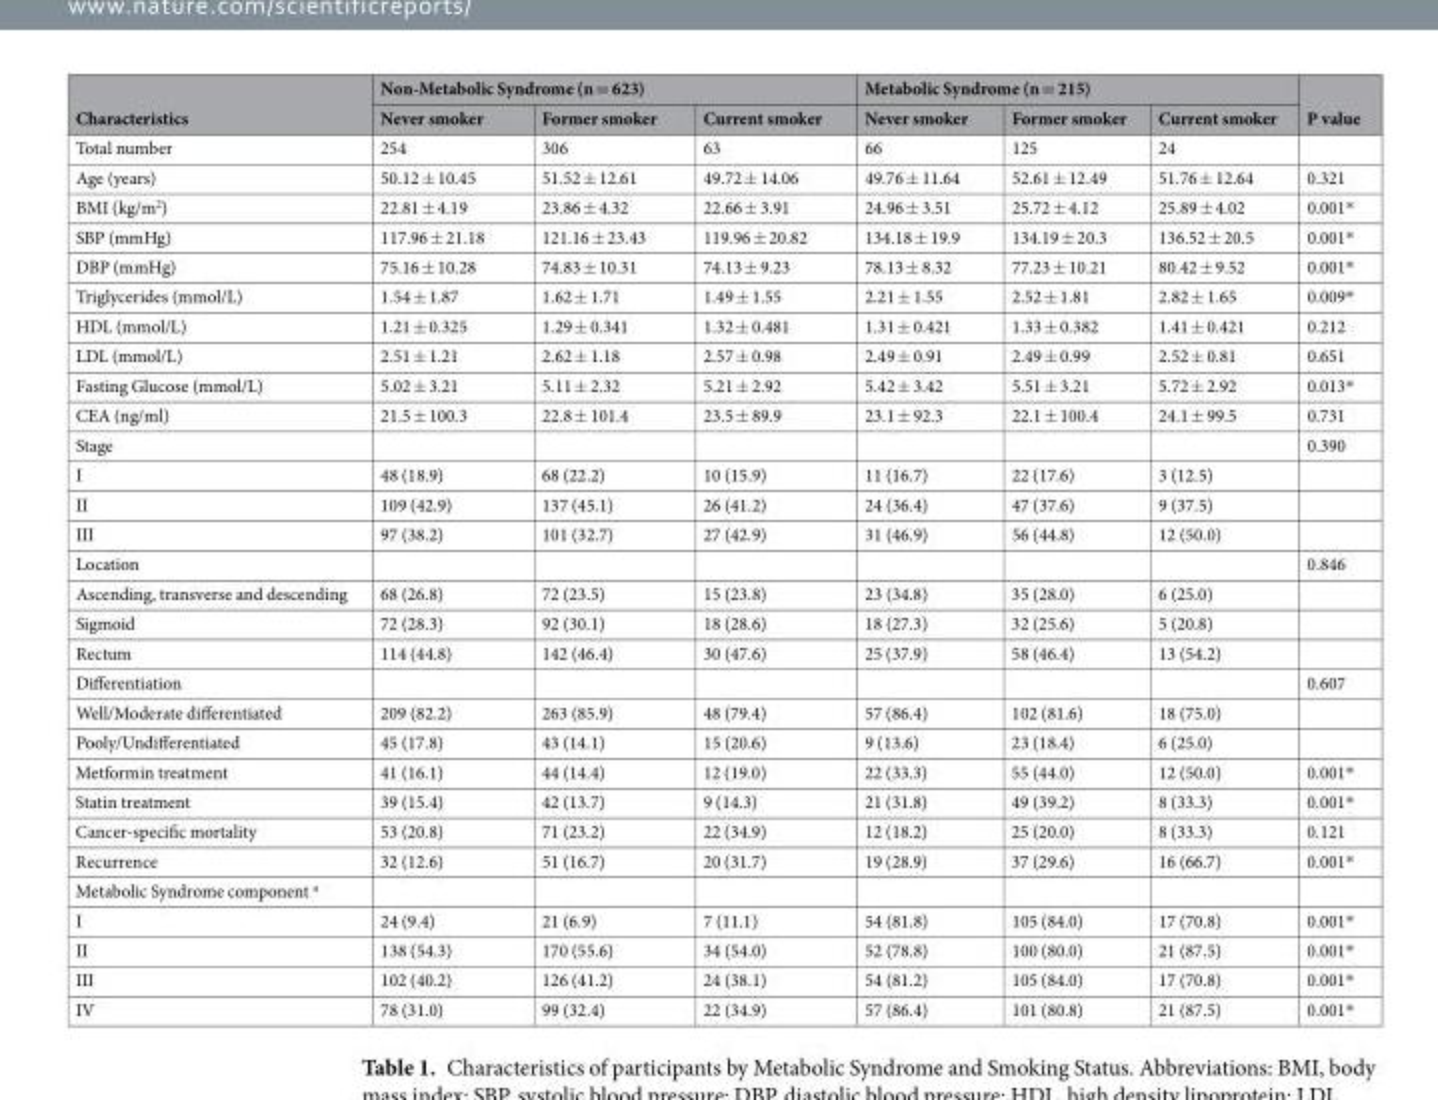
<table><thead><tr><td rowspan="2">Characteristics</td><td colspan="3">Non-Metabolic Syndrome (n = 623)</td><td colspan="3">Metabolic Syndrome (n = 215)</td><td rowspan="2">P value</td></tr><tr><td>Never smoker</td><td>Former smoker</td><td>Current smoker</td><td>Never smoker</td><td>Former smoker</td><td>Current smoker</td></tr></thead><tbody><tr><td>Total number</td><td>254</td><td>306</td><td>63</td><td>66</td><td>125</td><td>24</td><td></td></tr><tr><td>Age (years)</td><td>50.12 ± 10.45</td><td>51.52 ± 12.61</td><td>49.72 ± 14.06</td><td>49.76 ± 11.64</td><td>52.61 ± 12.49</td><td>51.76 ± 12.64</td><td>0.321</td></tr><tr><td>BMI (kg/m<sup>2</sup>)</td><td>22.81 ± 4.19</td><td>23.86 ± 4.32</td><td>22.66 ± 3.91</td><td>24.96 ± 3.51</td><td>25.72 ± 4.12</td><td>25.89 ± 4.02</td><td>0.001*</td></tr><tr><td>SBP (mmHg)</td><td>117.96 ± 21.18</td><td>121.16 ± 23.43</td><td>119.96 ± 20.82</td><td>134.18 ± 19.9</td><td>134.19 ± 20.3</td><td>136.52 ± 20.5</td><td>0.001*</td></tr><tr><td>DBP (mmHg)</td><td>75.16 ± 10.28</td><td>74.83 ± 10.31</td><td>74.13 ± 9.23</td><td>78.13 ± 8.32</td><td>77.23 ± 10.21</td><td>80.42 ± 9.52</td><td>0.001*</td></tr><tr><td>Triglycerides (mmol/L)</td><td>1.54 ± 1.87</td><td>1.62 ± 1.71</td><td>1.49 ± 1.55</td><td>2.21 ± 1.55</td><td>2.52 ± 1.81</td><td>2.82 ± 1.65</td><td>0.009*</td></tr><tr><td>HDL (mmol/L)</td><td>1.21 ± 0.325</td><td>1.29 ± 0.341</td><td>1.32 ± 0.481</td><td>1.31 ± 0.421</td><td>1.33 ± 0.382</td><td>1.41 ± 0.421</td><td>0.212</td></tr><tr><td>LDL (mmol/L)</td><td>2.51 ± 1.21</td><td>2.62 ± 1.18</td><td>2.57 ± 0.98</td><td>2.49 ± 0.91</td><td>2.49 ± 0.99</td><td>2.52 ± 0.81</td><td>0.651</td></tr><tr><td>Fasting Glucose (mmol/L)</td><td>5.02 ± 3.21</td><td>5.11 ± 2.32</td><td>5.21 ± 2.92</td><td>5.42 ± 3.42</td><td>5.51 ± 3.21</td><td>5.72 ± 2.92</td><td>0.013*</td></tr><tr><td>CEA (ng/ml)</td><td>21.5 ± 100.3</td><td>22.8 ± 101.4</td><td>23.5 ± 89.9</td><td>23.1 ± 92.3</td><td>22.1 ± 100.4</td><td>24.1 ± 99.5</td><td>0.731</td></tr><tr><td>Stage</td><td></td><td></td><td></td><td></td><td></td><td></td><td>0.390</td></tr><tr><td>I</td><td>48 (18.9)</td><td>68 (22.2)</td><td>10 (15.9)</td><td>11 (16.7)</td><td>22 (17.6)</td><td>3 (12.5)</td><td></td></tr><tr><td>II</td><td>109 (42.9)</td><td>137 (45.1)</td><td>26 (41.2)</td><td>24 (36.4)</td><td>47 (37.6)</td><td>9 (37.5)</td><td></td></tr><tr><td>III</td><td>97 (38.2)</td><td>101 (32.7)</td><td>27 (42.9)</td><td>31 (46.9)</td><td>56 (44.8)</td><td>12 (50.0)</td><td></td></tr><tr><td>Location</td><td></td><td></td><td></td><td></td><td></td><td></td><td>0.846</td></tr><tr><td>Ascending, transverse and descending</td><td>68 (26.8)</td><td>72 (23.5)</td><td>15 (23.8)</td><td>23 (34.8)</td><td>35 (28.0)</td><td>6 (25.0)</td><td></td></tr><tr><td>Sigmoid</td><td>72 (28.3)</td><td>92 (30.1)</td><td>18 (28.6)</td><td>18 (27.3)</td><td>32 (25.6)</td><td>5 (20.8)</td><td></td></tr><tr><td>Rectum</td><td>114 (44.8)</td><td>142 (46.4)</td><td>30 (47.6)</td><td>25 (37.9)</td><td>58 (46.4)</td><td>13 (54.2)</td><td></td></tr><tr><td>Differentiation</td><td></td><td></td><td></td><td></td><td></td><td></td><td>0.607</td></tr><tr><td>Well/Moderate differentiated</td><td>209 (82.2)</td><td>263 (85.9)</td><td>48 (79.4)</td><td>57 (86.4)</td><td>102 (81.6)</td><td>18 (75.0)</td><td></td></tr><tr><td>Pooly/Undifferentiated</td><td>45 (17.8)</td><td>43 (14.1)</td><td>15 (20.6)</td><td>9 (13.6)</td><td>23 (18.4)</td><td>6 (25.0)</td><td></td></tr><tr><td>Metformin treatment</td><td>41 (16.1)</td><td>44 (14.4)</td><td>12 (19.0)</td><td>22 (33.3)</td><td>55 (44.0)</td><td>12 (50.0)</td><td>0.001*</td></tr><tr><td>Statin treatment</td><td>39 (15.4)</td><td>42 (13.7)</td><td>9 (14.3)</td><td>21 (31.8)</td><td>49 (39.2)</td><td>8 (33.3)</td><td>0.001*</td></tr><tr><td>Cancer-specific mortality</td><td>53 (20.8)</td><td>71 (23.2)</td><td>22 (34.9)</td><td>12 (18.2)</td><td>25 (20.0)</td><td>8 (33.3)</td><td>0.121</td></tr><tr><td>Recurrence</td><td>32 (12.6)</td><td>51 (16.7)</td><td>20 (31.7)</td><td>19 (28.9)</td><td>37 (29.6)</td><td>16 (66.7)</td><td>0.001*</td></tr><tr><td colspan="8">Metabolic Syndrome component <sup>a</sup></td></tr><tr><td>I</td><td>24 (9.4)</td><td>21 (6.9)</td><td>7 (11.1)</td><td>54 (81.8)</td><td>105 (84.0)</td><td>17 (70.8)</td><td>0.001*</td></tr><tr><td>II</td><td>138 (54.3)</td><td>170 (55.6)</td><td>34 (54.0)</td><td>52 (78.8)</td><td>100 (80.0)</td><td>21 (87.5)</td><td>0.001*</td></tr><tr><td>III</td><td>102 (40.2)</td><td>126 (41.2)</td><td>24 (38.1)</td><td>54 (81.2)</td><td>105 (84.0)</td><td>17 (70.8)</td><td>0.001*</td></tr><tr><td>IV</td><td>78 (31.0)</td><td>99 (32.4)</td><td>22 (34.9)</td><td>57 (86.4)</td><td>101 (80.8)</td><td>21 (87.5)</td><td>0.001*</td></tr></tbody></table>